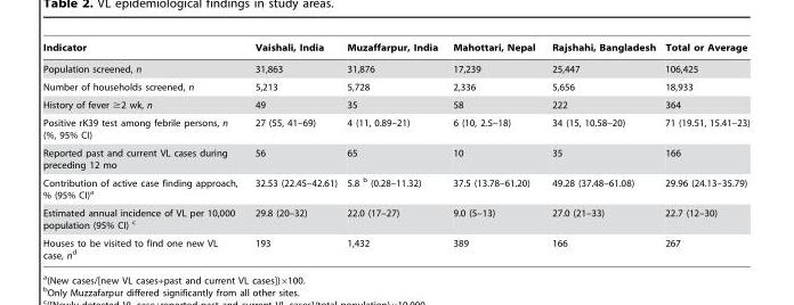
<table><thead><tr><td>Indicator</td><td>Vaishali, India</td><td>Muzaffarpur, India</td><td>Mahottari, Nepal</td><td>Rajshahi, Bangladesh</td><td>Total or Average</td></tr></thead><tbody><tr><td>Population screened, n</td><td>31,863</td><td>31,876</td><td>17,239</td><td>25,447</td><td>106,425</td></tr><tr><td>Number of households screened, n</td><td>5,213</td><td>5,728</td><td>2,336</td><td>5,656</td><td>18,933</td></tr><tr><td>History of fever ≥2 wk, n</td><td>49</td><td>35</td><td>58</td><td>222</td><td>364</td></tr><tr><td>Positive rK39 test among febrile persons, n (%, 95% CI)</td><td>27 (55, 41–69)</td><td>4 (11, 0.89–21)</td><td>6 (10, 2.5–18)</td><td>34 (15, 10.58–20)</td><td>71 (19.51, 15.41–23)</td></tr><tr><td>Reported past and current VL cases during preceding 12 mo</td><td>56</td><td>65</td><td>10</td><td>35</td><td>166</td></tr><tr><td>Contribution of active case finding approach, % (95% CI)<sup>a</sup></td><td>32.53 (22.45–42.61)</td><td>5.8 b (0.28–11.32)</td><td>37.5 (13.78–61.20)</td><td>49.28 (37.48–61.08)</td><td>29.96 (24.13–35.79)</td></tr><tr><td>Estimated annual incidence of VL per 10,000 population (95% CI) c</td><td>29.8 (20–32)</td><td>22.0 (17–27)</td><td>9.0 (5–13)</td><td>27.0 (21–33)</td><td>22.7 (12–30)</td></tr><tr><td>Houses to be visited to find one new VL case, nd</td><td>193</td><td>1,432</td><td>389</td><td>166</td><td>267</td></tr></tbody></table>